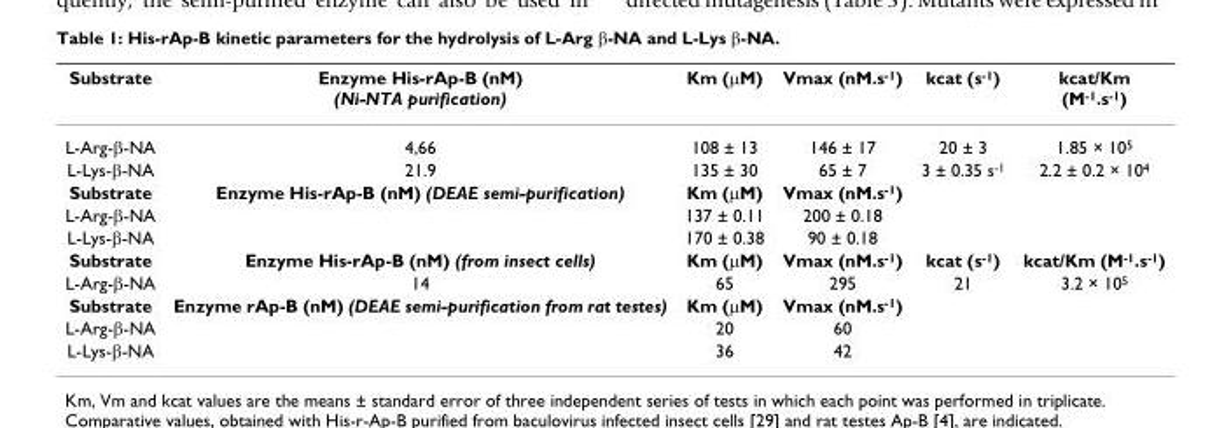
<table><thead><tr><td>Substrate</td><td>Enzyme His-rAp-B (nM) (Ni-NTA purification)</td><td>Km (µM)</td><td>Vmax (nM.s<sup>-1</sup>)</td><td>kcat (s<sup>-1</sup>)</td><td>kcat/Km (M<sup>-1</sup>.s<sup>-1</sup>)</td></tr></thead><tbody><tr><td>L-Arg-β-NA</td><td>4,66</td><td>108 ± 13</td><td>146 ± 17</td><td>20 ± 3</td><td>1.85 × 10<sup>5</sup></td></tr><tr><td>L-Lys-β-NA</td><td>21.9</td><td>135 ± 30</td><td>65 ± 7</td><td>3 ± 0.35 s<sup>-1</sup></td><td>2.2 ± 0.2 × 10<sup>4</sup></td></tr><tr><td>Substrate</td><td>Enzyme His-rAp-B (nM) (DEAE semi-purification)</td><td>Km (µM)</td><td>Vmax (nM.s<sup>-1</sup>)</td><td></td><td></td></tr><tr><td>L-Arg-β-NA</td><td></td><td>137 ± 0.11</td><td>200 ± 0.18</td><td></td><td></td></tr><tr><td>L-Lys-β-NA</td><td></td><td>170 ± 0.38</td><td>90 ± 0.18</td><td></td><td></td></tr><tr><td>Substrate</td><td>Enzyme His-rAp-B (nM) (from insect cells)</td><td>Km (µM)</td><td>Vmax (nM.s<sup>-1</sup>)</td><td>kcat (s<sup>-1</sup>)</td><td>kcat/Km (M<sup>-1</sup>.s<sup>-1</sup>)</td></tr><tr><td>L-Arg-β-NA</td><td>14</td><td>65</td><td>295</td><td>21</td><td>3.2 × 10<sup>5</sup></td></tr><tr><td>Substrate</td><td>Enzyme rAp-B (nM) (DEAE semi-purification from rat testes)</td><td>Km (µM)</td><td>Vmax (nM.s<sup>-1</sup>)</td><td></td><td></td></tr><tr><td>L-Arg-β-NA</td><td></td><td>20</td><td>60</td><td></td><td></td></tr><tr><td>L-Lys-β-NA</td><td></td><td>36</td><td>42</td><td></td><td></td></tr></tbody></table>